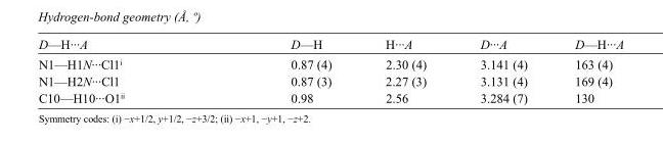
<table><tbody><tr><td>D—H···A</td><td>D—H</td><td>H···A</td><td>D···A</td><td>D—H···A</td></tr><tr><td>N1—H1N···Cl1<sup>i</sup></td><td>0.87 (4)</td><td>2.30 (4)</td><td>3.141 (4)</td><td>163 (4)</td></tr><tr><td>N1—H2N···Cl1</td><td>0.87 (3)</td><td>2.27 (3)</td><td>3.131 (4)</td><td>169 (4)</td></tr><tr><td>C10—H10···O1<sup>ii</sup></td><td>0.98</td><td>2.56</td><td>3.284 (7)</td><td>130</td></tr></tbody></table>